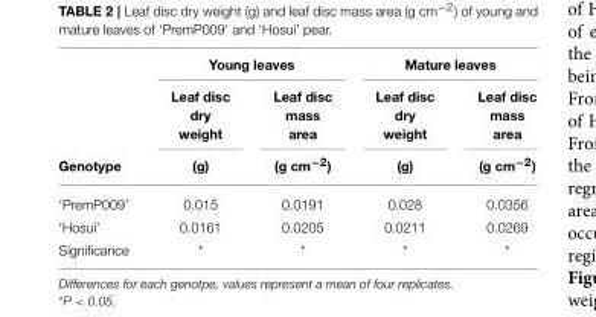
<table><thead><tr><td rowspan="3">Genotype</td><td colspan="2">Young leaves</td><td colspan="2">Mature leaves</td></tr><tr><td rowspan="2">Leaf disc dry weight (g)</td><td rowspan="2">Leaf disc mass area (g cm<sup>−2</sup>)</td><td rowspan="2">Leaf disc dry weight (g)</td><td rowspan="2">Leaf disc mass area (g cm<sup>−2</sup>)</td></tr><tr></tr></thead><tbody><tr><td>‘PremP009’</td><td>0.015</td><td>0.0191</td><td>0.028</td><td>0.0356</td></tr><tr><td>‘Hosui’</td><td>0.0161</td><td>0.0205</td><td>0.0211</td><td>0.0269</td></tr><tr><td>Significance</td><td>*</td><td>*</td><td>*</td><td>*</td></tr></tbody></table>